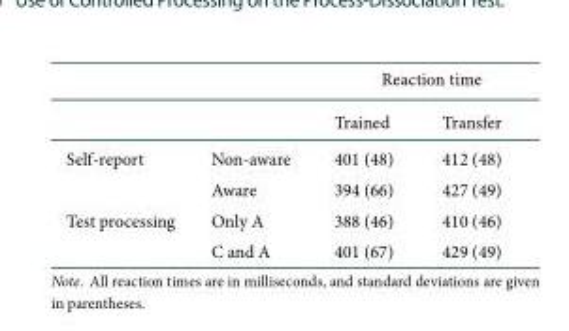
<table><thead><tr><td rowspan="2"></td><td rowspan="2"></td><td colspan="2">Reaction time</td></tr><tr><td>Trained</td><td>Transfer</td></tr></thead><tbody><tr><td rowspan="2">Self-report</td><td>Non-aware</td><td>401 (48)</td><td>412 (48)</td></tr><tr><td>Aware</td><td>394 (66)</td><td>427 (49)</td></tr><tr><td rowspan="2">Test processing</td><td>Only A</td><td>388 (46)</td><td>410 (46)</td></tr><tr><td>C and A</td><td>401 (67)</td><td>429 (49)</td></tr></tbody></table>